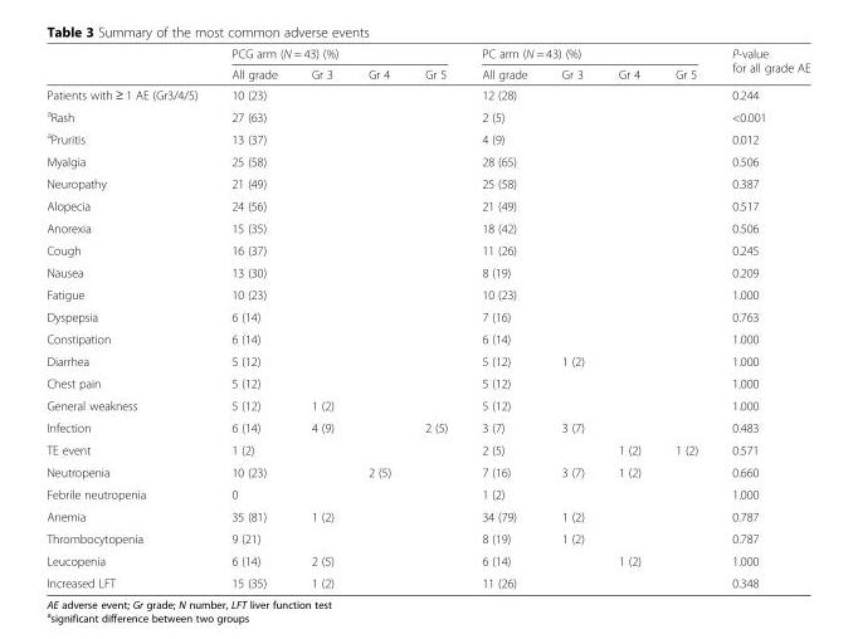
<table><thead><tr><td rowspan="2"></td><td colspan="4">PCG arm (N = 43) (%)</td><td colspan="4">PC arm (N = 43) (%)</td><td rowspan="2">P-value for all grade AE</td></tr><tr><td>All grade</td><td>Gr 3</td><td>Gr 4</td><td>Gr 5</td><td>All grade</td><td>Gr 3</td><td>Gr 4</td><td>Gr 5</td></tr></thead><tbody><tr><td>Patients with ≥ 1 AE (Gr3/4/5)</td><td>10 (23)</td><td></td><td></td><td></td><td>12 (28)</td><td></td><td></td><td></td><td>0.244</td></tr><tr><td><sup>a</sup>Rash</td><td>27 (63)</td><td></td><td></td><td></td><td>2 (5)</td><td></td><td></td><td></td><td>&lt;0.001</td></tr><tr><td><sup>a</sup>Pruritis</td><td>13 (37)</td><td></td><td></td><td></td><td>4 (9)</td><td></td><td></td><td></td><td>0.012</td></tr><tr><td>Myalgia</td><td>25 (58)</td><td></td><td></td><td></td><td>28 (65)</td><td></td><td></td><td></td><td>0.506</td></tr><tr><td>Neuropathy</td><td>21 (49)</td><td></td><td></td><td></td><td>25 (58)</td><td></td><td></td><td></td><td>0.387</td></tr><tr><td>Alopecia</td><td>24 (56)</td><td></td><td></td><td></td><td>21 (49)</td><td></td><td></td><td></td><td>0.517</td></tr><tr><td>Anorexia</td><td>15 (35)</td><td></td><td></td><td></td><td>18 (42)</td><td></td><td></td><td></td><td>0.506</td></tr><tr><td>Cough</td><td>16 (37)</td><td></td><td></td><td></td><td>11 (26)</td><td></td><td></td><td></td><td>0.245</td></tr><tr><td>Nausea</td><td>13 (30)</td><td></td><td></td><td></td><td>8 (19)</td><td></td><td></td><td></td><td>0.209</td></tr><tr><td>Fatigue</td><td>10 (23)</td><td></td><td></td><td></td><td>10 (23)</td><td></td><td></td><td></td><td>1.000</td></tr><tr><td>Dyspepsia</td><td>6 (14)</td><td></td><td></td><td></td><td>7 (16)</td><td></td><td></td><td></td><td>0.763</td></tr><tr><td>Constipation</td><td>6 (14)</td><td></td><td></td><td></td><td>6 (14)</td><td></td><td></td><td></td><td>1.000</td></tr><tr><td>Diarrhea</td><td>5 (12)</td><td></td><td></td><td></td><td>5 (12)</td><td>1 (2)</td><td></td><td></td><td>1.000</td></tr><tr><td>Chest pain</td><td>5 (12)</td><td></td><td></td><td></td><td>5 (12)</td><td></td><td></td><td></td><td>1.000</td></tr><tr><td>General weakness</td><td>5 (12)</td><td>1 (2)</td><td></td><td></td><td>5 (12)</td><td></td><td></td><td></td><td>1.000</td></tr><tr><td>Infection</td><td>6 (14)</td><td>4 (9)</td><td></td><td>2 (5)</td><td>3 (7)</td><td>3 (7)</td><td></td><td></td><td>0.483</td></tr><tr><td>TE event</td><td>1 (2)</td><td></td><td></td><td></td><td>2 (5)</td><td></td><td>1 (2)</td><td>1 (2)</td><td>0.571</td></tr><tr><td>Neutropenia</td><td>10 (23)</td><td></td><td>2 (5)</td><td></td><td>7 (16)</td><td>3 (7)</td><td>1 (2)</td><td></td><td>0.660</td></tr><tr><td>Febrile neutropenia</td><td>0</td><td></td><td></td><td></td><td>1 (2)</td><td></td><td></td><td></td><td>1.000</td></tr><tr><td>Anemia</td><td>35 (81)</td><td>1 (2)</td><td></td><td></td><td>34 (79)</td><td>1 (2)</td><td></td><td></td><td>0.787</td></tr><tr><td>Thrombocytopenia</td><td>9 (21)</td><td></td><td></td><td></td><td>8 (19)</td><td>1 (2)</td><td></td><td></td><td>0.787</td></tr><tr><td>Leucopenia</td><td>6 (14)</td><td>2 (5)</td><td></td><td></td><td>6 (14)</td><td></td><td>1 (2)</td><td></td><td>1.000</td></tr><tr><td>Increased LFT</td><td>15 (35)</td><td>1 (2)</td><td></td><td></td><td>11 (26)</td><td></td><td></td><td></td><td>0.348</td></tr></tbody></table>